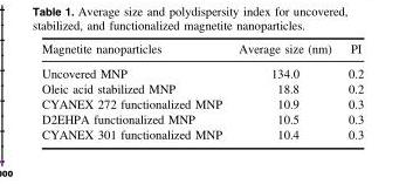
<table><thead><tr><td>Magnetite nanoparticles</td><td>Average size (nm)</td><td>PI</td></tr></thead><tbody><tr><td>Uncovered MNP</td><td>134.0</td><td>0.2</td></tr><tr><td>Oleic acid stabilized MNP</td><td>18.8</td><td>0.2</td></tr><tr><td>CYANEX 272 functionalized MNP</td><td>10.9</td><td>0.3</td></tr><tr><td>D2EHPA functionalized MNP</td><td>10.5</td><td>0.3</td></tr><tr><td>CYANEX 301 functionalized MNP</td><td>10.4</td><td>0.3</td></tr></tbody></table>